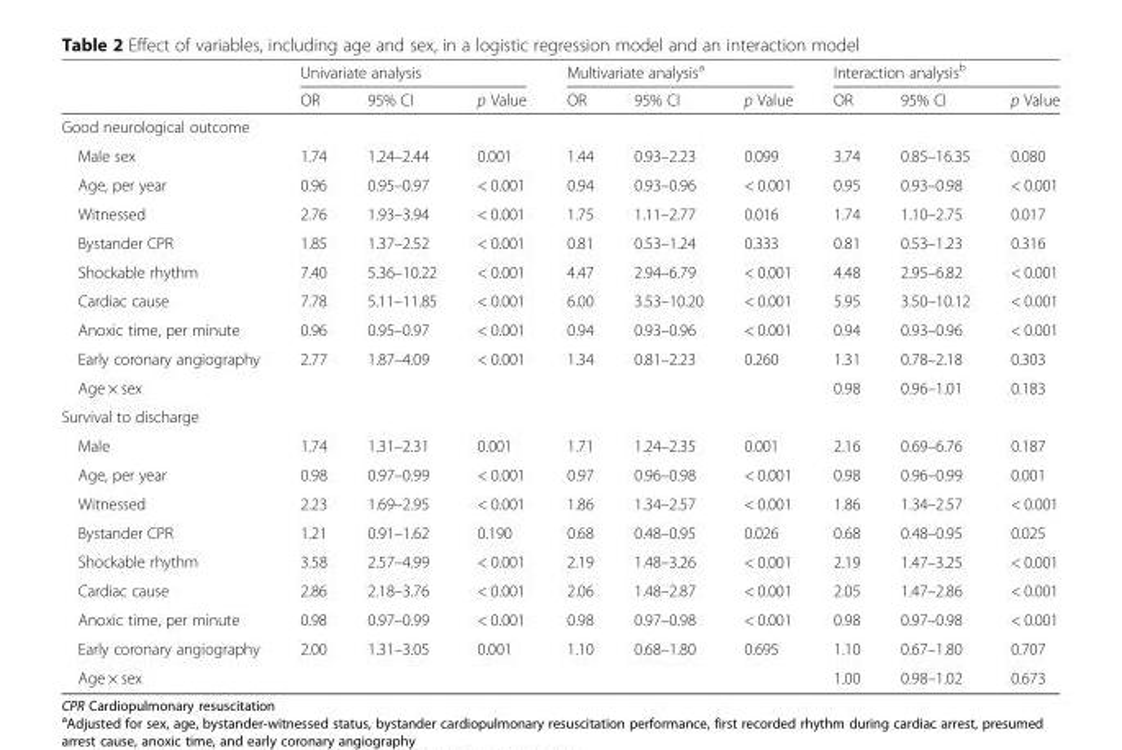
<table><thead><tr><td rowspan="2"></td><td colspan="3">Univariate analysis</td><td colspan="3">Multivariate analysis<sup>a</sup></td><td colspan="3">Interaction analysis<sup>b</sup></td></tr><tr><td>OR</td><td>95% CI</td><td>p Value</td><td>OR</td><td>95% CI</td><td>p Value</td><td>OR</td><td>95% CI</td><td>p Value</td></tr></thead><tbody><tr><td colspan="10">Good neurological outcome</td></tr><tr><td>Male sex</td><td>1.74</td><td>1.24–2.44</td><td>0.001</td><td>1.44</td><td>0.93–2.23</td><td>0.099</td><td>3.74</td><td>0.85–16.35</td><td>0.080</td></tr><tr><td>Age, per year</td><td>0.96</td><td>0.95–0.97</td><td>&lt; 0.001</td><td>0.94</td><td>0.93–0.96</td><td>&lt; 0.001</td><td>0.95</td><td>0.93–0.98</td><td>&lt; 0.001</td></tr><tr><td>Witnessed</td><td>2.76</td><td>1.93–3.94</td><td>&lt; 0.001</td><td>1.75</td><td>1.11–2.77</td><td>0.016</td><td>1.74</td><td>1.10–2.75</td><td>0.017</td></tr><tr><td>Bystander CPR</td><td>1.85</td><td>1.37–2.52</td><td>&lt; 0.001</td><td>0.81</td><td>0.53–1.24</td><td>0.333</td><td>0.81</td><td>0.53–1.23</td><td>0.316</td></tr><tr><td>Shockable rhythm</td><td>7.40</td><td>5.36–10.22</td><td>&lt; 0.001</td><td>4.47</td><td>2.94–6.79</td><td>&lt; 0.001</td><td>4.48</td><td>2.95–6.82</td><td>&lt; 0.001</td></tr><tr><td>Cardiac cause</td><td>7.78</td><td>5.11–11.85</td><td>&lt; 0.001</td><td>6.00</td><td>3.53–10.20</td><td>&lt; 0.001</td><td>5.95</td><td>3.50–10.12</td><td>&lt; 0.001</td></tr><tr><td>Anoxic time, per minute</td><td>0.96</td><td>0.95–0.97</td><td>&lt; 0.001</td><td>0.94</td><td>0.93–0.96</td><td>&lt; 0.001</td><td>0.94</td><td>0.93–0.96</td><td>&lt; 0.001</td></tr><tr><td>Early coronary angiography</td><td>2.77</td><td>1.87–4.09</td><td>&lt; 0.001</td><td>1.34</td><td>0.81–2.23</td><td>0.260</td><td>1.31</td><td>0.78–2.18</td><td>0.303</td></tr><tr><td>Age × sex</td><td></td><td></td><td></td><td></td><td></td><td></td><td>0.98</td><td>0.96–1.01</td><td>0.183</td></tr><tr><td colspan="10">Survival to discharge</td></tr><tr><td>Male</td><td>1.74</td><td>1.31–2.31</td><td>0.001</td><td>1.71</td><td>1.24–2.35</td><td>0.001</td><td>2.16</td><td>0.69–6.76</td><td>0.187</td></tr><tr><td>Age, per year</td><td>0.98</td><td>0.97–0.99</td><td>&lt; 0.001</td><td>0.97</td><td>0.96–0.98</td><td>&lt; 0.001</td><td>0.98</td><td>0.96–0.99</td><td>0.001</td></tr><tr><td>Witnessed</td><td>2.23</td><td>1.69–2.95</td><td>&lt; 0.001</td><td>1.86</td><td>1.34–2.57</td><td>&lt; 0.001</td><td>1.86</td><td>1.34–2.57</td><td>&lt; 0.001</td></tr><tr><td>Bystander CPR</td><td>1.21</td><td>0.91–1.62</td><td>0.190</td><td>0.68</td><td>0.48–0.95</td><td>0.026</td><td>0.68</td><td>0.48–0.95</td><td>0.025</td></tr><tr><td>Shockable rhythm</td><td>3.58</td><td>2.57–4.99</td><td>&lt; 0.001</td><td>2.19</td><td>1.48–3.26</td><td>&lt; 0.001</td><td>2.19</td><td>1.47–3.25</td><td>&lt; 0.001</td></tr><tr><td>Cardiac cause</td><td>2.86</td><td>2.18–3.76</td><td>&lt; 0.001</td><td>2.06</td><td>1.48–2.87</td><td>&lt; 0.001</td><td>2.05</td><td>1.47–2.86</td><td>&lt; 0.001</td></tr><tr><td>Anoxic time, per minute</td><td>0.98</td><td>0.97–0.99</td><td>&lt; 0.001</td><td>0.98</td><td>0.97–0.98</td><td>&lt; 0.001</td><td>0.98</td><td>0.97–0.98</td><td>&lt; 0.001</td></tr><tr><td>Early coronary angiography</td><td>2.00</td><td>1.31–3.05</td><td>0.001</td><td>1.10</td><td>0.68–1.80</td><td>0.695</td><td>1.10</td><td>0.67–1.80</td><td>0.707</td></tr><tr><td>Age × sex</td><td></td><td></td><td></td><td></td><td></td><td></td><td>1.00</td><td>0.98–1.02</td><td>0.673</td></tr></tbody></table>